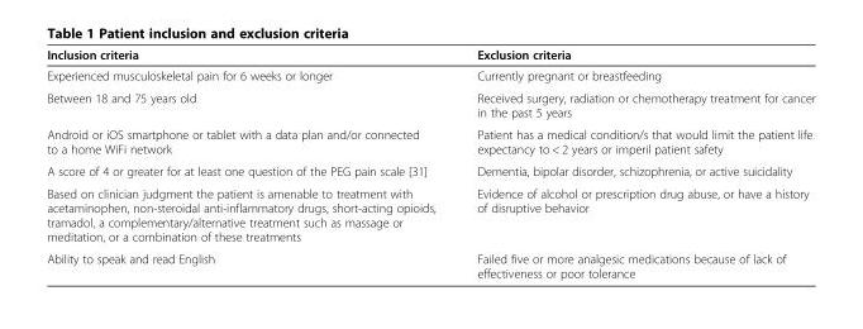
<table><thead><tr><td>Inclusion criteria</td><td>Exclusion criteria</td></tr></thead><tbody><tr><td>Experienced musculoskeletal pain for 6 weeks or longer</td><td>Currently pregnant or breastfeeding</td></tr><tr><td>Between 18 and 75 years old</td><td>Received surgery, radiation or chemotherapy treatment for cancer in the past 5 years</td></tr><tr><td>Android or iOS smartphone or tablet with a data plan and/or connected to a home WiFi network</td><td>Patient has a medical condition/s that would limit the patient life expectancy to &lt; 2 years or imperil patient safety</td></tr><tr><td>A score of 4 or greater for at least one question of the PEG pain scale [31]</td><td>Dementia, bipolar disorder, schizophrenia, or active suicidality</td></tr><tr><td>Based on clinician judgment the patient is amenable to treatment with acetaminophen, non-steroidal anti-inflammatory drugs, short-acting opioids, tramadol, a complementary/alternative treatment such as massage or meditation, or a combination of these treatments</td><td>Evidence of alcohol or prescription drug abuse, or have a history of disruptive behavior</td></tr><tr><td>Ability to speak and read English</td><td>Failed five or more analgesic medications because of lack of effectiveness or poor tolerance</td></tr></tbody></table>